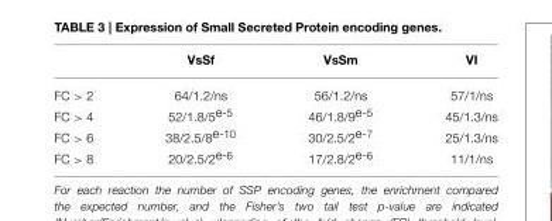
<table><thead><tr><td></td><td>VsSf</td><td>VsSm</td><td>VI</td></tr></thead><tbody><tr><td>FC &gt; 2</td><td>64/1.2/ns</td><td>56/1.2/ns</td><td>57/1/ns</td></tr><tr><td>FC &gt; 4</td><td>52/1.8/5<sup>e-5</sup></td><td>46/1.8/9<sup>e-5</sup></td><td>45/1.3/ns</td></tr><tr><td>FC &gt; 6</td><td>38/2.5/8<sup>e-10</sup></td><td>30/2.5/2<sup>e-7</sup></td><td>25/1.3/ns</td></tr><tr><td>FC &gt; 8</td><td>20/2.5/2<sup>e-6</sup></td><td>17/2.8/2<sup>e-6</sup></td><td>11/1/ns</td></tr></tbody></table>